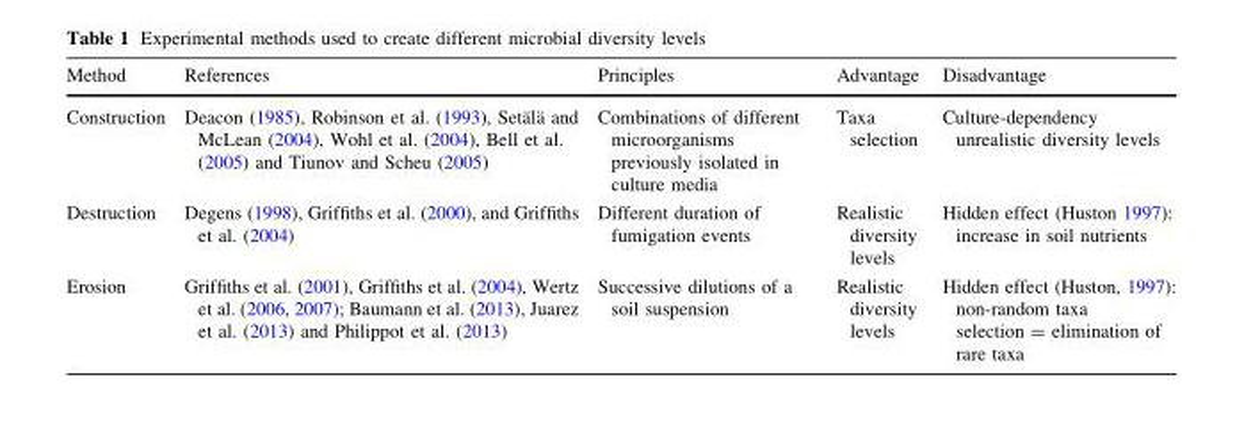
<table><thead><tr><td>Method</td><td>References</td><td>Principles</td><td>Advantage</td><td>Disadvantage</td></tr></thead><tbody><tr><td>Construction</td><td>Deacon (1985), Robinson et al. (1993), Seta¨la¨ and McLean (2004), Wohl et al. (2004), Bell et al. (2005) and Tiunov and Scheu (2005)</td><td>Combinations of different microorganisms previously isolated in culture media</td><td>Taxa selection</td><td>Culture-dependency unrealistic diversity levels</td></tr><tr><td>Destruction</td><td>Degens (1998), Griffiths et al. (2000), and Griffiths et al. (2004)</td><td>Different duration of fumigation events</td><td>Realistic diversity levels</td><td>Hidden effect (Huston 1997): increase in soil nutrients</td></tr><tr><td>Erosion</td><td>Griffiths et al. (2001), Griffiths et al. (2004), Wertz et al. (2006, 2007); Baumann et al. (2013), Juarez et al. (2013) and Philippot et al. (2013)</td><td>Successive dilutions of a soil suspension</td><td>Realistic diversity levels</td><td>Hidden effect (Huston, 1997): non-random taxa selection = elimination of rare taxa</td></tr></tbody></table>